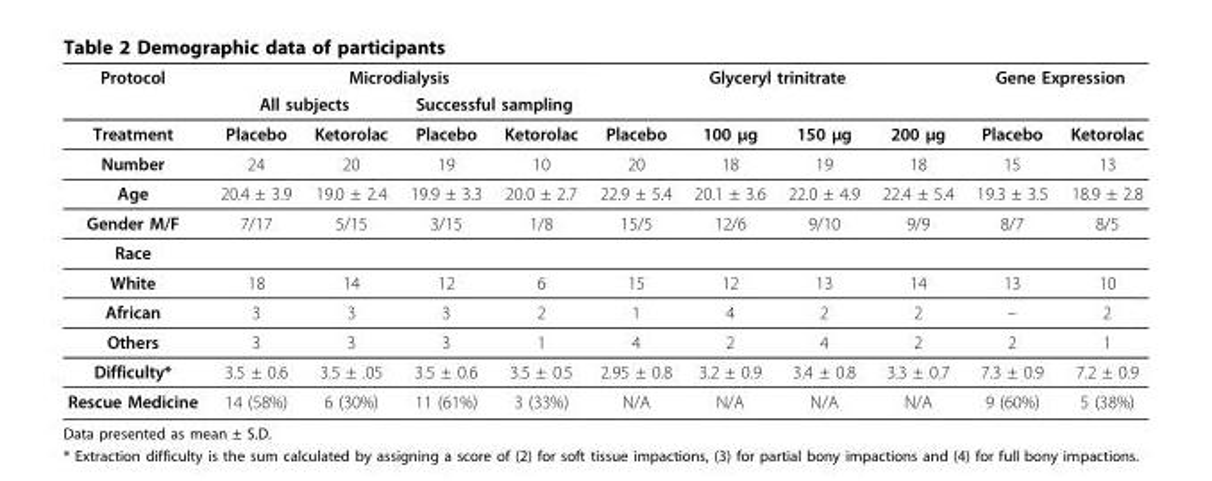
<table><thead><tr><td rowspan="3">Protocol Treatment</td><td colspan="4">Microdialysis</td><td colspan="4">Glyceryl trinitrate</td><td colspan="2">Gene Expression</td></tr><tr><td colspan="2">All subjects</td><td colspan="2">Successful sampling</td><td rowspan="2">Placebo</td><td rowspan="2">100 μg</td><td rowspan="2">150 μg</td><td rowspan="2">200 μg</td><td rowspan="2">Placebo</td><td rowspan="2">Ketorolac</td></tr><tr><td>Placebo</td><td>Ketorolac</td><td>Placebo</td><td>Ketorolac</td></tr></thead><tbody><tr><td>Number</td><td>24</td><td>20</td><td>19</td><td>10</td><td>20</td><td>18</td><td>19</td><td>18</td><td>15</td><td>13</td></tr><tr><td>Age</td><td>20.4 ± 3.9</td><td>19.0 ± 2.4</td><td>19.9 ± 3.3</td><td>20.0 ± 2.7</td><td>22.9 ± 5.4</td><td>20.1 ± 3.6</td><td>22.0 ± 4.9</td><td>22.4 ± 5.4</td><td>19.3 ± 3.5</td><td>18.9 ± 2.8</td></tr><tr><td>Gender M/F</td><td>7/17</td><td>5/15</td><td>3/15</td><td>1/8</td><td>15/5</td><td>12/6</td><td>9/10</td><td>9/9</td><td>8/7</td><td>8/5</td></tr><tr><td colspan="11">Race</td></tr><tr><td>White</td><td>18</td><td>14</td><td>12</td><td>6</td><td>15</td><td>12</td><td>13</td><td>14</td><td>13</td><td>10</td></tr><tr><td>African</td><td>3</td><td>3</td><td>3</td><td>2</td><td>1</td><td>4</td><td>2</td><td>2</td><td>–</td><td>2</td></tr><tr><td>Others</td><td>3</td><td>3</td><td>3</td><td>1</td><td>4</td><td>2</td><td>4</td><td>2</td><td>2</td><td>1</td></tr><tr><td>Difficulty*</td><td>3.5 ± 0.6</td><td>3.5 ± .05</td><td>3.5 ± 0.6</td><td>3.5 ± 0.5</td><td>2.95 ± 0.8</td><td>3.2 ± 0.9</td><td>3.4 ± 0.8</td><td>3.3 ± 0.7</td><td>7.3 ± 0.9</td><td>7.2 ± 0.9</td></tr><tr><td>Rescue Medicine</td><td>14 (58%)</td><td>6 (30%)</td><td>11 (61%)</td><td>3 (33%)</td><td>N/A</td><td>N/A</td><td>N/A</td><td>N/A</td><td>9 (60%)</td><td>5 (38%)</td></tr></tbody></table>